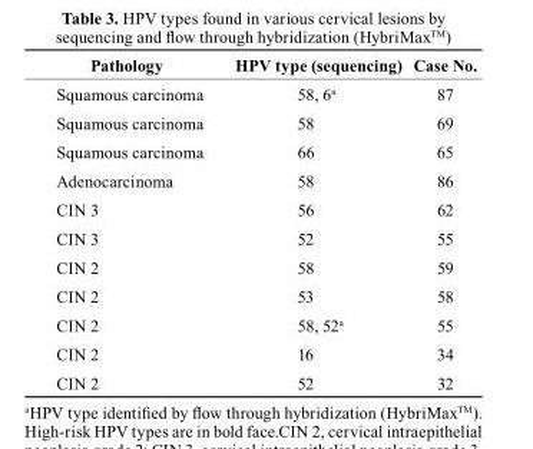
<table><thead><tr><td>Pathology</td><td>HPV type (sequencing)</td><td>case No.</td></tr></thead><tbody><tr><td>Squamous carcinoma</td><td>58, 6<sup>a</sup></td><td>87</td></tr><tr><td>Squamous carcinoma</td><td>58</td><td>69</td></tr><tr><td>Squamous carcinoma</td><td>66</td><td>65</td></tr><tr><td>Adenocarcinoma</td><td>58</td><td>86</td></tr><tr><td>CIN 3</td><td>56</td><td>62</td></tr><tr><td>CIN 3</td><td>52</td><td>55</td></tr><tr><td>CIN 2</td><td>58</td><td>59</td></tr><tr><td>CIN 2</td><td>53</td><td>58</td></tr><tr><td>CIN 2</td><td>58, 52<sup>a</sup></td><td>55</td></tr><tr><td>CIN 2</td><td>16</td><td>34</td></tr><tr><td>CIN 2</td><td>52</td><td>32</td></tr></tbody></table>